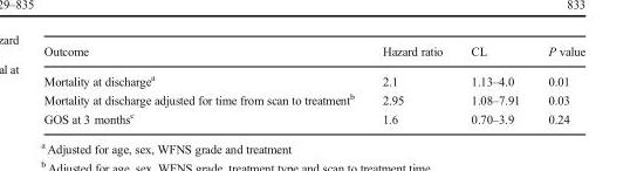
<table><thead><tr><td>Outcome</td><td>Hazard ratio</td><td>CL</td><td>P value</td></tr></thead><tbody><tr><td>Mortality at discharge<sup>a</sup></td><td>2.1</td><td>1.13–4.0</td><td>0.01</td></tr><tr><td>Mortality at discharge adjusted for time from scan to treatment<sup>b</sup></td><td>2.95</td><td>1.08–7.91</td><td>0.03</td></tr><tr><td>GOS at 3 months<sup>c</sup></td><td>1.6</td><td>0.70–3.9</td><td>0.24</td></tr></tbody></table>